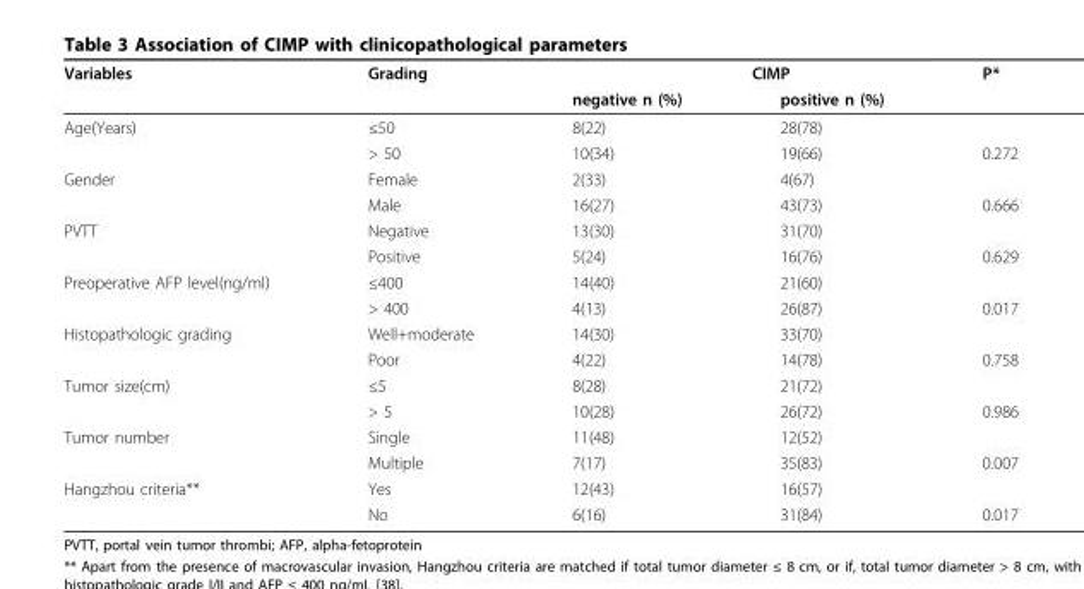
<table><thead><tr><td rowspan="2">Variables</td><td rowspan="2">Grading</td><td colspan="2">CIMP</td><td rowspan="2">P*</td></tr><tr><td>negative n (%)</td><td>positive n (%)</td></tr></thead><tbody><tr><td rowspan="2">Age(Years)</td><td>≤50</td><td>8(22)</td><td>28(78)</td><td></td></tr><tr><td>&gt; 50</td><td>10(34)</td><td>19(66)</td><td>0.272</td></tr><tr><td rowspan="2">Gender</td><td>Female</td><td>2(33)</td><td>4(67)</td><td></td></tr><tr><td>Male</td><td>16(27)</td><td>43(73)</td><td>0.666</td></tr><tr><td rowspan="2">PVTT</td><td>Negative</td><td>13(30)</td><td>31(70)</td><td></td></tr><tr><td>Positive</td><td>5(24)</td><td>16(76)</td><td>0.629</td></tr><tr><td rowspan="2">Preoperative AFP level(ng/ml)</td><td>≤400</td><td>14(40)</td><td>21(60)</td><td></td></tr><tr><td>&gt; 400</td><td>4(13)</td><td>26(87)</td><td>0.017</td></tr><tr><td rowspan="2">Histopathologic grading</td><td>Well+moderate</td><td>14(30)</td><td>33(70)</td><td></td></tr><tr><td>Poor</td><td>4(22)</td><td>14(78)</td><td>0.758</td></tr><tr><td rowspan="2">Tumor size(cm)</td><td>≤5</td><td>8(28)</td><td>21(72)</td><td></td></tr><tr><td>&gt; 5</td><td>10(28)</td><td>26(72)</td><td>0.986</td></tr><tr><td rowspan="2">Tumor number</td><td>Single</td><td>11(48)</td><td>12(52)</td><td></td></tr><tr><td>Multiple</td><td>7(17)</td><td>35(83)</td><td>0.007</td></tr><tr><td rowspan="2">Hangzhou criteria**</td><td>Yes</td><td>12(43)</td><td>16(57)</td><td></td></tr><tr><td>No</td><td>6(16)</td><td>31(84)</td><td>0.017</td></tr></tbody></table>